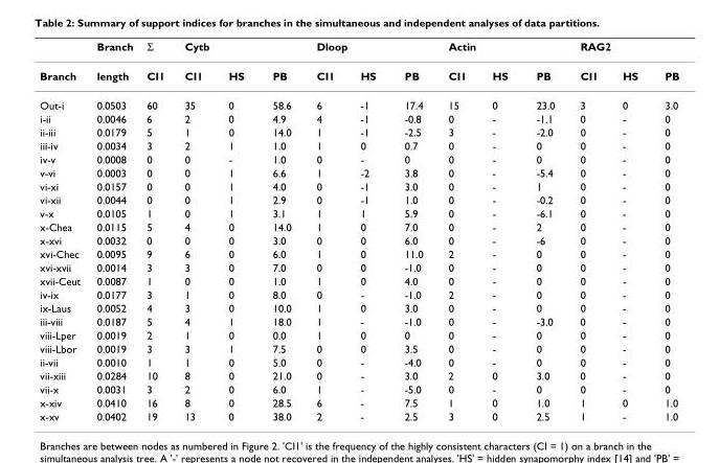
<table><thead><tr><td rowspan="2">Branch</td><td rowspan="2">Branch length</td><td rowspan="2">Σ CI1</td><td colspan="2">Cytb</td><td rowspan="2">PB</td><td colspan="2">Dloop</td><td rowspan="2">PB</td><td colspan="2">Actin</td><td rowspan="2">PB</td><td colspan="2">RAG2</td><td rowspan="2">PB</td></tr><tr><td>CI1</td><td>HS</td><td>CI1</td><td>HS</td><td>CI1</td><td>HS</td><td>CI1</td><td>HS</td></tr></thead><tbody><tr><td>Out-i</td><td>0.0503</td><td>60</td><td>35</td><td>0</td><td>58.6</td><td>6</td><td>-1</td><td>17.4</td><td>15</td><td>0</td><td>23.0</td><td>3</td><td>0</td><td>3.0</td></tr><tr><td>i-ii</td><td>0.0046</td><td>6</td><td>2</td><td>0</td><td>4.9</td><td>4</td><td>-1</td><td>-0.8</td><td>0</td><td>-</td><td>-1.1</td><td>0</td><td>-</td><td>0</td></tr><tr><td>ii-iii</td><td>0.0179</td><td>5</td><td>1</td><td>0</td><td>14.0</td><td>1</td><td>-1</td><td>-2.5</td><td>3</td><td>-</td><td>-2.0</td><td>0</td><td>-</td><td>0</td></tr><tr><td>iii-iv</td><td>0.0034</td><td>3</td><td>2</td><td>1</td><td>1.0</td><td>1</td><td>0</td><td>0.7</td><td>0</td><td>-</td><td>0</td><td>0</td><td>-</td><td>0</td></tr><tr><td>iv-v</td><td>0.0008</td><td>0</td><td>0</td><td>-</td><td>1.0</td><td>0</td><td>-</td><td>0</td><td>0</td><td>-</td><td>0</td><td>0</td><td>-</td><td>0</td></tr><tr><td>v-vi</td><td>0.0003</td><td>0</td><td>0</td><td>1</td><td>6.6</td><td>1</td><td>-2</td><td>3.8</td><td>0</td><td>-</td><td>-5.4</td><td>0</td><td>-</td><td>0</td></tr><tr><td>vi-xi</td><td>0.0157</td><td>0</td><td>0</td><td>1</td><td>4.0</td><td>0</td><td>-1</td><td>3.0</td><td>0</td><td>-</td><td>1</td><td>0</td><td>-</td><td>0</td></tr><tr><td>vi-xii</td><td>0.0044</td><td>0</td><td>0</td><td>1</td><td>2.9</td><td>0</td><td>-1</td><td>1.0</td><td>0</td><td>-</td><td>-0.2</td><td>0</td><td>-</td><td>0</td></tr><tr><td>v-x</td><td>0.0105</td><td>1</td><td>0</td><td>1</td><td>3.1</td><td>1</td><td>1</td><td>5.9</td><td>0</td><td>-</td><td>-6.1</td><td>0</td><td>-</td><td>0</td></tr><tr><td>x-Chea</td><td>0.0115</td><td>5</td><td>4</td><td>0</td><td>14.0</td><td>1</td><td>0</td><td>7.0</td><td>0</td><td>-</td><td>2</td><td>0</td><td>-</td><td>0</td></tr><tr><td>x-xvi</td><td>0.0032</td><td>0</td><td>0</td><td>0</td><td>3.0</td><td>0</td><td>0</td><td>6.0</td><td>0</td><td>-</td><td>-6</td><td>0</td><td>-</td><td>0</td></tr><tr><td>xvi-Chec</td><td>0.0095</td><td>9</td><td>6</td><td>0</td><td>6.0</td><td>1</td><td>0</td><td>11.0</td><td>2</td><td>-</td><td>0</td><td>0</td><td>-</td><td>0</td></tr><tr><td>xvi-xvii</td><td>0.0014</td><td>3</td><td>3</td><td>0</td><td>7.0</td><td>0</td><td>0</td><td>-1.0</td><td>0</td><td>-</td><td>0</td><td>0</td><td>-</td><td>0</td></tr><tr><td>xvii-Ceut</td><td>0.0087</td><td>1</td><td>0</td><td>0</td><td>1.0</td><td>1</td><td>0</td><td>4.0</td><td>0</td><td>-</td><td>0</td><td>0</td><td>-</td><td>0</td></tr><tr><td>iv-ix</td><td>0.0177</td><td>3</td><td>1</td><td>0</td><td>8.0</td><td>0</td><td>-</td><td>-1.0</td><td>2</td><td>-</td><td>0</td><td>0</td><td>-</td><td>0</td></tr><tr><td>ix-Laus</td><td>0.0052</td><td>4</td><td>3</td><td>0</td><td>10.0</td><td>1</td><td>0</td><td>3.0</td><td>0</td><td>-</td><td>0</td><td>0</td><td>-</td><td>0</td></tr><tr><td>iii-viii</td><td>0.0187</td><td>5</td><td>4</td><td>1</td><td>18.0</td><td>1</td><td>-</td><td>-1.0</td><td>0</td><td>-</td><td>-3.0</td><td>0</td><td>-</td><td>0</td></tr><tr><td>viii-Lper</td><td>0.0019</td><td>2</td><td>1</td><td>0</td><td>0.0</td><td>1</td><td>0</td><td>0</td><td>0</td><td>-</td><td>0</td><td>0</td><td>-</td><td>0</td></tr><tr><td>viii-Lbor</td><td>0.0019</td><td>3</td><td>3</td><td>1</td><td>7.5</td><td>0</td><td>0</td><td>3.5</td><td>0</td><td>-</td><td>0</td><td>0</td><td>-</td><td>0</td></tr><tr><td>ii-vii</td><td>0.0010</td><td>1</td><td>1</td><td>0</td><td>5.0</td><td>0</td><td>-</td><td>-4.0</td><td>0</td><td>-</td><td>0</td><td>0</td><td>-</td><td>0</td></tr><tr><td>vii-xiii</td><td>0.0284</td><td>10</td><td>8</td><td>0</td><td>21.0</td><td>0</td><td>-</td><td>3.0</td><td>2</td><td>0</td><td>3.0</td><td>0</td><td>-</td><td>0</td></tr><tr><td>vii-x</td><td>0.0031</td><td>3</td><td>2</td><td>0</td><td>6.0</td><td>1</td><td>-</td><td>-5.0</td><td>0</td><td>-</td><td>0</td><td>0</td><td>-</td><td>0</td></tr><tr><td>x-xiv</td><td>0.0410</td><td>16</td><td>8</td><td>0</td><td>28.5</td><td>6</td><td>-</td><td>7.5</td><td>1</td><td>0</td><td>1.0</td><td>1</td><td>0</td><td>1.0</td></tr><tr><td>x-xv</td><td>0.0402</td><td>19</td><td>13</td><td>0</td><td>38.0</td><td>2</td><td>-</td><td>2.5</td><td>3</td><td>0</td><td>2.5</td><td>1</td><td>-</td><td>1.0</td></tr></tbody></table>